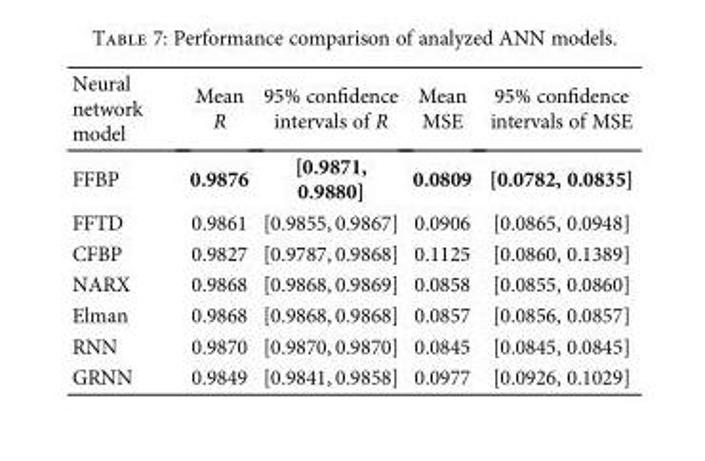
<table><thead><tr><td>Neural network model</td><td>Mean R</td><td>95% confidence intervals of R</td><td>Mean MSE</td><td>95% confidence intervals of MSE</td></tr></thead><tbody><tr><td>FFBP</td><td>0.9876</td><td>[0.9871, 0.9880]</td><td>0.0809</td><td>[0.0782, 0.0835]</td></tr><tr><td>FFTD</td><td>0.9861</td><td>[0.9855, 0.9867]</td><td>0.0906</td><td>[0.0865, 0.0948]</td></tr><tr><td>CFBP</td><td>0.9827</td><td>[0.9787, 0.9868]</td><td>0.1125</td><td>[0.0860, 0.1389]</td></tr><tr><td>NARX</td><td>0.9868</td><td>[0.9868, 0.9869]</td><td>0.0858</td><td>[0.0855, 0.0860]</td></tr><tr><td>Elman</td><td>0.9868</td><td>[0.9868, 0.9868]</td><td>0.0857</td><td>[0.0856, 0.0857]</td></tr><tr><td>RNN</td><td>0.9870</td><td>[0.9870, 0.9870]</td><td>0.0845</td><td>[0.0845, 0.0845]</td></tr><tr><td>GRNN</td><td>0.9849</td><td>[0.9841, 0.9858]</td><td>0.0977</td><td>[0.0926, 0.1029]</td></tr></tbody></table>